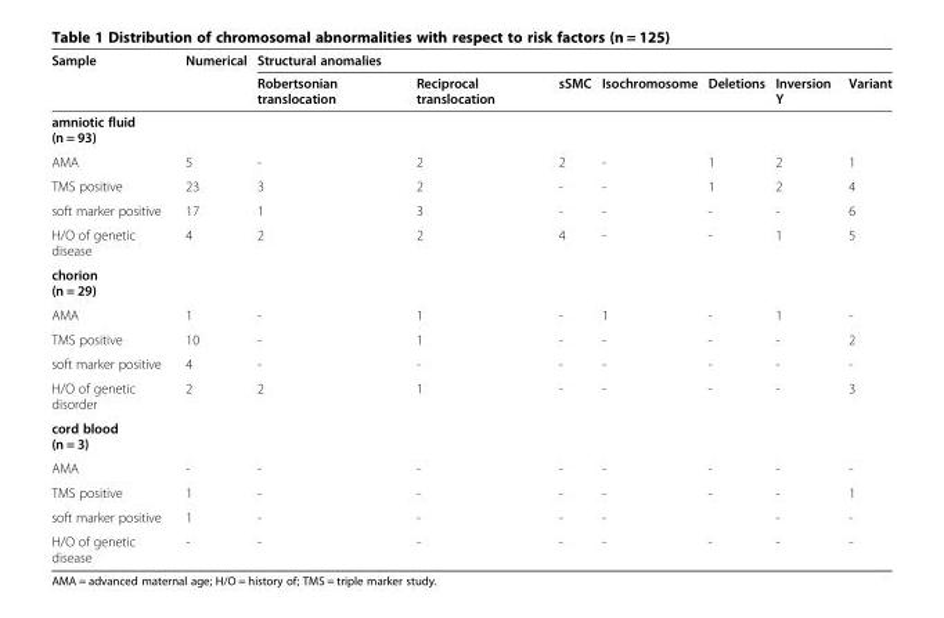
<table><thead><tr><td rowspan="2">Sample</td><td rowspan="2">Numerical</td><td colspan="7">Structural anomalies</td></tr><tr><td>Robertsonian translocation</td><td>Reciprocal translocation</td><td>sSMC</td><td>Isochromosome</td><td>Deletions</td><td>Inversion Y</td><td>Variant</td></tr></thead><tbody><tr><td colspan="9">amniotic fluid (n = 93)</td></tr><tr><td>AMA</td><td>5</td><td>-</td><td>2</td><td>2</td><td>-</td><td>1</td><td>2</td><td>1</td></tr><tr><td>TMS positive</td><td>23</td><td>3</td><td>2</td><td>-</td><td>-</td><td>1</td><td>2</td><td>4</td></tr><tr><td>soft marker positive</td><td>17</td><td>1</td><td>3</td><td>-</td><td>-</td><td>-</td><td>-</td><td>6</td></tr><tr><td>H/O of genetic disease</td><td>4</td><td>2</td><td>2</td><td>4</td><td>-</td><td>-</td><td>1</td><td>5</td></tr><tr><td colspan="9">chorion (n = 29)</td></tr><tr><td>AMA</td><td>1</td><td>-</td><td>1</td><td>-</td><td>1</td><td>-</td><td>1</td><td>-</td></tr><tr><td>TMS positive</td><td>10</td><td>-</td><td>1</td><td>-</td><td>-</td><td>-</td><td>-</td><td>2</td></tr><tr><td>soft marker positive</td><td>4</td><td>-</td><td>-</td><td>-</td><td>-</td><td>-</td><td>-</td><td>-</td></tr><tr><td>H/O of genetic disorder</td><td>2</td><td>2</td><td>1</td><td>-</td><td>-</td><td>-</td><td>-</td><td>3</td></tr><tr><td colspan="9">cord blood (n = 3)</td></tr><tr><td>AMA</td><td>-</td><td>-</td><td>-</td><td>-</td><td>-</td><td>-</td><td>-</td><td>-</td></tr><tr><td>TMS positive</td><td>1</td><td>-</td><td>-</td><td>-</td><td>-</td><td>-</td><td>-</td><td>1</td></tr><tr><td>soft marker positive</td><td>1</td><td>-</td><td>-</td><td>-</td><td>-</td><td></td><td>-</td><td>-</td></tr><tr><td>H/O of genetic disease</td><td>-</td><td>-</td><td>-</td><td>-</td><td>-</td><td>-</td><td>-</td><td>-</td></tr></tbody></table>